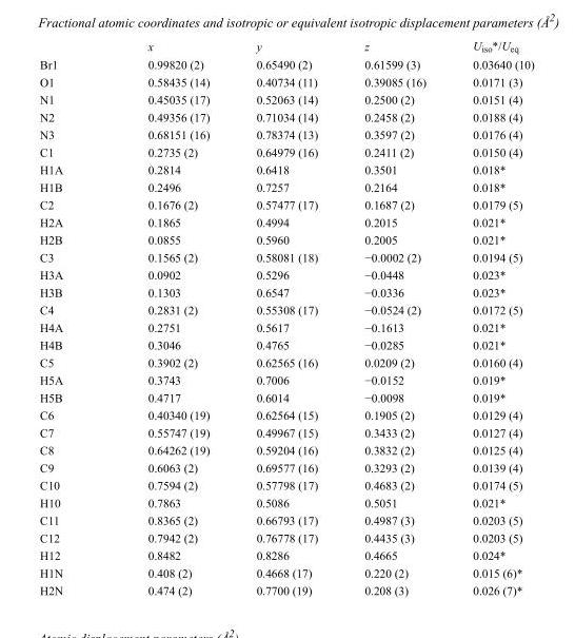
<table><thead><tr><td></td><td>x</td><td>y</td><td>z</td><td>U<sub>iso</sub>*/U<sub>eq</sub></td></tr></thead><tbody><tr><td>Br1</td><td>0.99820 (2)</td><td>0.65490 (2)</td><td>0.61599 (3)</td><td>0.03640 (10)</td></tr><tr><td>O1</td><td>0.58435 (14)</td><td>0.40734 (11)</td><td>0.39085 (16)</td><td>0.0171 (3)</td></tr><tr><td>N1</td><td>0.45035 (17)</td><td>0.52063 (14)</td><td>0.2500 (2)</td><td>0.0151 (4)</td></tr><tr><td>N2</td><td>0.49356 (17)</td><td>0.71034 (14)</td><td>0.2458 (2)</td><td>0.0188 (4)</td></tr><tr><td>N3</td><td>0.68151 (16)</td><td>0.78374 (13)</td><td>0.3597 (2)</td><td>0.0176 (4)</td></tr><tr><td>C1</td><td>0.2735 (2)</td><td>0.64979 (16)</td><td>0.2411 (2)</td><td>0.0150 (4)</td></tr><tr><td>H1A</td><td>0.2814</td><td>0.6418</td><td>0.3501</td><td>0.018*</td></tr><tr><td>H1B</td><td>0.2496</td><td>0.7257</td><td>0.2164</td><td>0.018*</td></tr><tr><td>C2</td><td>0.1676 (2)</td><td>0.57477 (17)</td><td>0.1687 (2)</td><td>0.0179 (5)</td></tr><tr><td>H2A</td><td>0.1865</td><td>0.4994</td><td>0.2015</td><td>0.021*</td></tr><tr><td>H2B</td><td>0.0855</td><td>0.5960</td><td>0.2005</td><td>0.021*</td></tr><tr><td>C3</td><td>0.1565 (2)</td><td>0.58081 (18)</td><td>−0.0002 (2)</td><td>0.0194 (5)</td></tr><tr><td>H3A</td><td>0.0902</td><td>0.5296</td><td>−0.0448</td><td>0.023*</td></tr><tr><td>H3B</td><td>0.1303</td><td>0.6547</td><td>−0.0336</td><td>0.023*</td></tr><tr><td>C4</td><td>0.2831 (2)</td><td>0.55308 (17)</td><td>−0.0524 (2)</td><td>0.0172 (5)</td></tr><tr><td>H4A</td><td>0.2751</td><td>0.5617</td><td>−0.1613</td><td>0.021*</td></tr><tr><td>H4B</td><td>0.3046</td><td>0.4765</td><td>−0.0285</td><td>0.021*</td></tr><tr><td>C5</td><td>0.3902 (2)</td><td>0.62565 (16)</td><td>0.0209 (2)</td><td>0.0160 (4)</td></tr><tr><td>H5A</td><td>0.3743</td><td>0.7006</td><td>−0.0152</td><td>0.019*</td></tr><tr><td>H5B</td><td>0.4717</td><td>0.6014</td><td>−0.0098</td><td>0.019*</td></tr><tr><td>C6</td><td>0.40340 (19)</td><td>0.62564 (15)</td><td>0.1905 (2)</td><td>0.0129 (4)</td></tr><tr><td>C7</td><td>0.55747 (19)</td><td>0.49967 (15)</td><td>0.3433 (2)</td><td>0.0127 (4)</td></tr><tr><td>C8</td><td>0.64262 (19)</td><td>0.59204 (16)</td><td>0.3832 (2)</td><td>0.0125 (4)</td></tr><tr><td>C9</td><td>0.6063 (2)</td><td>0.69577 (16)</td><td>0.3293 (2)</td><td>0.0139 (4)</td></tr><tr><td>C10</td><td>0.7594 (2)</td><td>0.57798 (17)</td><td>0.4683 (2)</td><td>0.0174 (5)</td></tr><tr><td>H10</td><td>0.7863</td><td>0.5086</td><td>0.5051</td><td>0.021*</td></tr><tr><td>C11</td><td>0.8365 (2)</td><td>0.66793 (17)</td><td>0.4987 (3)</td><td>0.0203 (5)</td></tr><tr><td>C12</td><td>0.7942 (2)</td><td>0.76778 (17)</td><td>0.4435 (3)</td><td>0.0203 (5)</td></tr><tr><td>H12</td><td>0.8482</td><td>0.8286</td><td>0.4665</td><td>0.024*</td></tr><tr><td>H1N</td><td>0.408 (2)</td><td>0.4668 (17)</td><td>0.220 (2)</td><td>0.015 (6)*</td></tr><tr><td>H2N</td><td>0.474 (2)</td><td>0.7700 (19)</td><td>0.208 (3)</td><td>0.026 (7)*</td></tr></tbody></table>